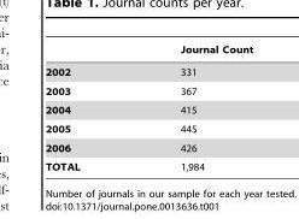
<table><thead><tr><td></td><td>Journal Count</td></tr></thead><tbody><tr><td>2002</td><td>331</td></tr><tr><td>2003</td><td>367</td></tr><tr><td>2004</td><td>415</td></tr><tr><td>2005</td><td>445</td></tr><tr><td>2006</td><td>426</td></tr><tr><td>TOTAL</td><td>1,984</td></tr></tbody></table>